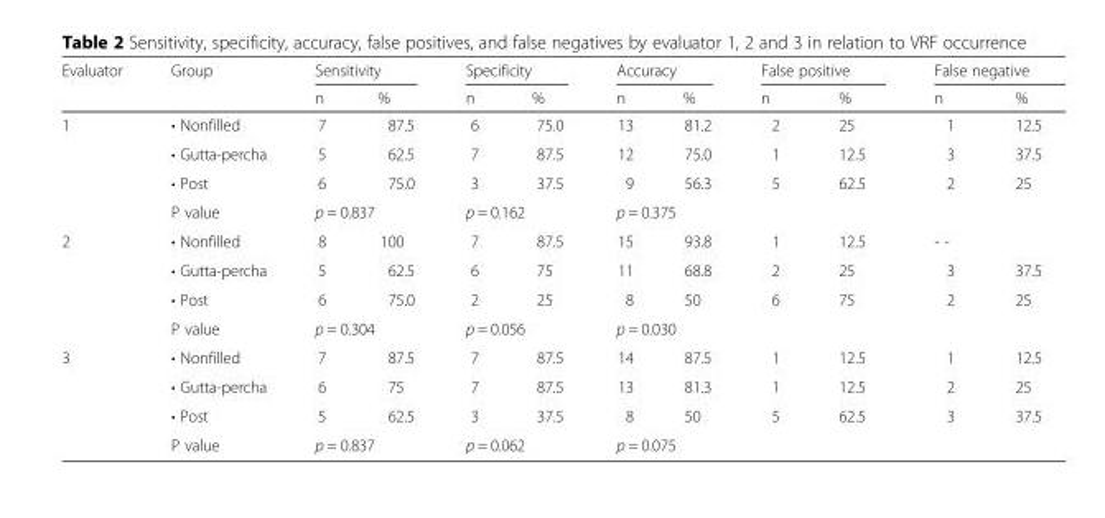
<table><thead><tr><td rowspan="2">Evaluator</td><td rowspan="2">Group</td><td colspan="2">Sensitivity</td><td colspan="2">Specificity</td><td colspan="2">Accuracy</td><td colspan="2">False positive</td><td colspan="2">False negative</td></tr><tr><td>n</td><td>%</td><td>n</td><td>%</td><td>n</td><td>%</td><td>n</td><td>%</td><td>n</td><td>%</td></tr></thead><tbody><tr><td rowspan="4">1</td><td>• Nonfilled</td><td>7</td><td>87.5</td><td>6</td><td>75.0</td><td>13</td><td>81.2</td><td>2</td><td>25</td><td>1</td><td>12.5</td></tr><tr><td>• Gutta-percha</td><td>5</td><td>62.5</td><td>7</td><td>87.5</td><td>12</td><td>75.0</td><td>1</td><td>12.5</td><td>3</td><td>37.5</td></tr><tr><td>• Post</td><td>6</td><td>75.0</td><td>3</td><td>37.5</td><td>9</td><td>56.3</td><td>5</td><td>62.5</td><td>2</td><td>25</td></tr><tr><td>P value</td><td colspan="2">p = 0.837</td><td colspan="2">p = 0.162</td><td colspan="2">p = 0.375</td><td></td><td></td><td></td><td></td></tr><tr><td rowspan="4">2</td><td>• Nonfilled</td><td>8</td><td>100</td><td>7</td><td>87.5</td><td>15</td><td>93.8</td><td>1</td><td>12.5</td><td colspan="2">- -</td></tr><tr><td>• Gutta-percha</td><td>5</td><td>62.5</td><td>6</td><td>75</td><td>11</td><td>68.8</td><td>2</td><td>25</td><td>3</td><td>37.5</td></tr><tr><td>• Post</td><td>6</td><td>75.0</td><td>2</td><td>25</td><td>8</td><td>50</td><td>6</td><td>75</td><td>2</td><td>25</td></tr><tr><td>P value</td><td colspan="2">p = 0.304</td><td colspan="2">p = 0.056</td><td colspan="2">p = 0.030</td><td></td><td></td><td></td><td></td></tr><tr><td rowspan="4">3</td><td>• Nonfilled</td><td>7</td><td>87.5</td><td>7</td><td>87.5</td><td>14</td><td>87.5</td><td>1</td><td>12.5</td><td>1</td><td>12.5</td></tr><tr><td>• Gutta-percha</td><td>6</td><td>75</td><td>7</td><td>87.5</td><td>13</td><td>81.3</td><td>1</td><td>12.5</td><td>2</td><td>25</td></tr><tr><td>• Post</td><td>5</td><td>62.5</td><td>3</td><td>37.5</td><td>8</td><td>50</td><td>5</td><td>62.5</td><td>3</td><td>37.5</td></tr><tr><td>P value</td><td colspan="2">p = 0.837</td><td colspan="2">p = 0.062</td><td colspan="2">p = 0.075</td><td></td><td></td><td></td><td></td></tr></tbody></table>